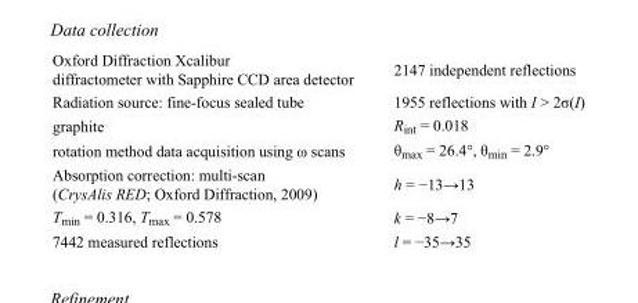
<table><tbody><tr><td>Oxford Diffraction Xcalibur diffractometer with Sapphire CCD area detector</td><td>2147 independent reflections</td></tr><tr><td>Radiation source: fine-focus sealed tube</td><td>1955 reflections with I &gt; 2σ(I)</td></tr><tr><td>graphite</td><td>R<sub>int</sub> = 0.018</td></tr><tr><td>rotation method data acquisition using ω scans</td><td>θ<sub>max</sub> = 26.4°, θ<sub>min</sub> = 2.9°</td></tr><tr><td>Absorption correction: multi-scan (CrysAlis RED; Oxford Diffraction, 2009)</td><td>h = −13→13</td></tr><tr><td>T<sub>min</sub> = 0.316, T<sub>max</sub> = 0.578</td><td>k = −8→7</td></tr><tr><td>7442 measured reflections</td><td>l = −35→35</td></tr></tbody></table>